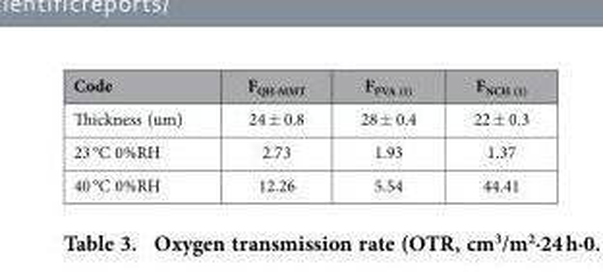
<table><thead><tr><td>Code</td><td>F<sub>QH-MMT</sub></td><td>F<sub>PVA (1)</sub></td><td>F<sub>NCH (1)</sub></td></tr></thead><tbody><tr><td>Thickness (um)</td><td>24 ± 0.8</td><td>28 ± 0.4</td><td>22 ± 0.3</td></tr><tr><td>23 °C 0%RH</td><td>2.73</td><td>1.93</td><td>1.37</td></tr><tr><td>40 °C 0%RH</td><td>12.26</td><td>5.54</td><td>44.41</td></tr></tbody></table>